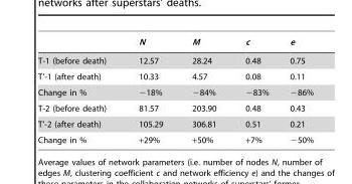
<table><thead><tr><td></td><td>N</td><td>M</td><td>c</td><td>e</td></tr></thead><tbody><tr><td>T-1 (before death)</td><td>12.57</td><td>28.24</td><td>0.48</td><td>0.75</td></tr><tr><td>T’-1 (after death)</td><td>10.33</td><td>4.57</td><td>0.08</td><td>0.11</td></tr><tr><td>Change in %</td><td>−18%</td><td>−84%</td><td>−83%</td><td>−86%</td></tr><tr><td>T-2 (before death)</td><td>81.57</td><td>203.90</td><td>0.48</td><td>0.43</td></tr><tr><td>T’-2 (after death)</td><td>105.29</td><td>306.81</td><td>0.51</td><td>0.21</td></tr><tr><td>Change in %</td><td>+29%</td><td>+50%</td><td>+7%</td><td>−50%</td></tr></tbody></table>